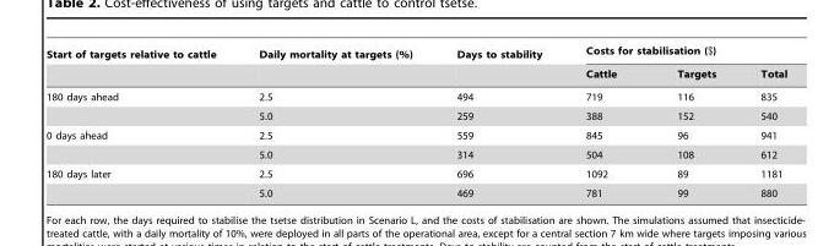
<table><thead><tr><td rowspan="2">Start of targets relative to cattle</td><td rowspan="2">Daily mortality at targets (%)</td><td rowspan="2">Days to stability</td><td colspan="3">Costs for stabilisation ($)</td></tr><tr><td>Cattle</td><td>Targets</td><td>Total</td></tr></thead><tbody><tr><td rowspan="2">180 days ahead</td><td>2.5</td><td>494</td><td>719</td><td>116</td><td>835</td></tr><tr><td>5.0</td><td>259</td><td>388</td><td>152</td><td>540</td></tr><tr><td rowspan="2">0 days ahead</td><td>2.5</td><td>559</td><td>845</td><td>96</td><td>941</td></tr><tr><td>5.0</td><td>314</td><td>504</td><td>108</td><td>612</td></tr><tr><td rowspan="2">180 days later</td><td>2.5</td><td>696</td><td>1092</td><td>89</td><td>1181</td></tr><tr><td>5.0</td><td>469</td><td>781</td><td>99</td><td>880</td></tr></tbody></table>